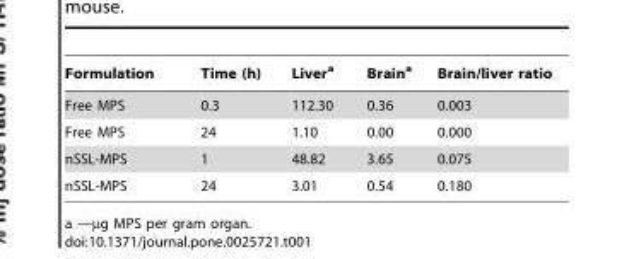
<table><thead><tr><td>Formulation</td><td>Time (h)</td><td>Liver<sup>a</sup></td><td>Brain<sup>a</sup></td><td>Brain/liver ratio</td></tr></thead><tbody><tr><td>Free MPS</td><td>0.3</td><td>112.30</td><td>0.36</td><td>0.003</td></tr><tr><td>Free MPS</td><td>24</td><td>1.10</td><td>0.00</td><td>0.000</td></tr><tr><td>nSSL-MPS</td><td>1</td><td>48.82</td><td>3.65</td><td>0.075</td></tr><tr><td>nSSL-MPS</td><td>24</td><td>3.01</td><td>0.54</td><td>0.180</td></tr></tbody></table>